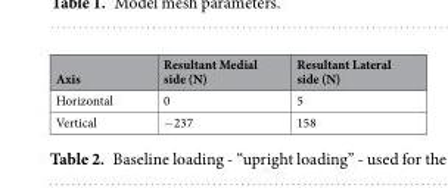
<table><thead><tr><td>Axis</td><td>Resultant Medial side (N)</td><td>Resultant Lateral side (N)</td></tr></thead><tbody><tr><td>Horizontal</td><td>0</td><td>5</td></tr><tr><td>Vertical</td><td>−237</td><td>158</td></tr></tbody></table>